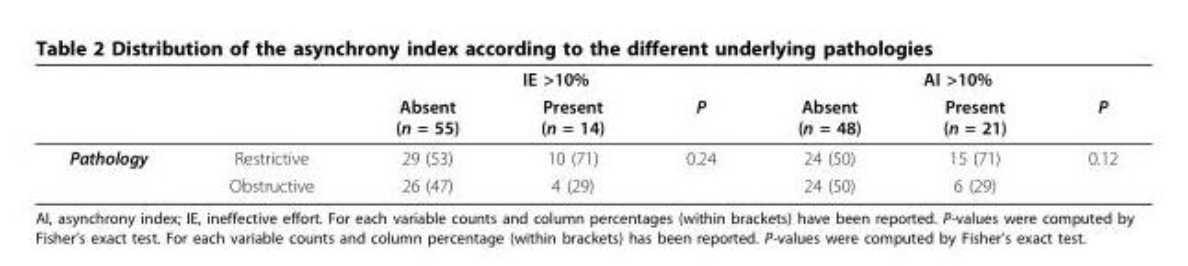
<table><thead><tr><td rowspan="2"></td><td rowspan="2"></td><td colspan="3">IE &gt;10%</td><td colspan="3">AI &gt;10%</td></tr><tr><td>Absent (n = 55)</td><td>Present (n = 14)</td><td>P</td><td>Absent (n = 48)</td><td>Present (n = 21)</td><td>P</td></tr></thead><tbody><tr><td rowspan="2">Pathology</td><td>Restrictive</td><td>29 (53)</td><td>10 (71)</td><td>0.24</td><td>24 (50)</td><td>15 (71)</td><td>0.12</td></tr><tr><td>Obstructive</td><td>26 (47)</td><td>4 (29)</td><td></td><td>24 (50)</td><td>6 (29)</td><td></td></tr></tbody></table>